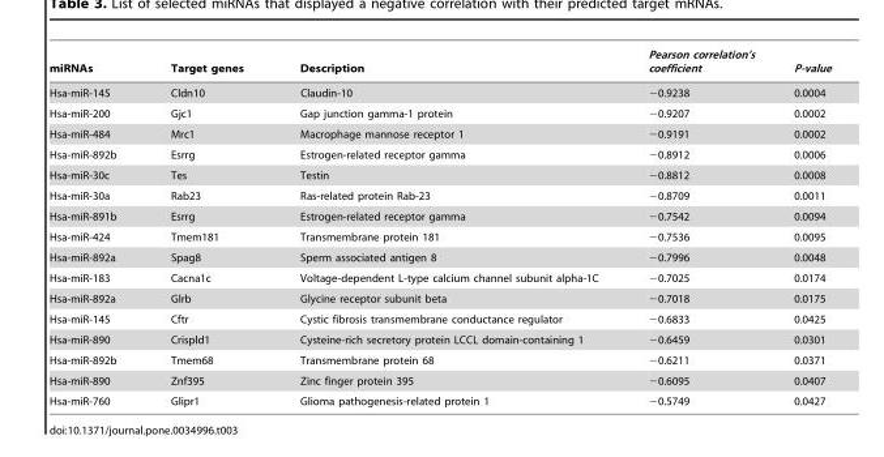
<table><thead><tr><td>miRNAs</td><td>Target genes</td><td>Description</td><td>Pearson correlation’s coefficient</td><td>P-value</td></tr></thead><tbody><tr><td>Hsa-miR-145</td><td>Cldn10</td><td>Claudin-10</td><td>−0.9238</td><td>0.0004</td></tr><tr><td>Hsa-miR-200</td><td>Gjc1</td><td>Gap junction gamma-1 protein</td><td>−0.9207</td><td>0.0002</td></tr><tr><td>Hsa-miR-484</td><td>Mrc1</td><td>Macrophage mannose receptor 1</td><td>−0.9191</td><td>0.0002</td></tr><tr><td>Hsa-miR-892b</td><td>Esrrg</td><td>Estrogen-related receptor gamma</td><td>−0.8912</td><td>0.0006</td></tr><tr><td>Hsa-miR-30c</td><td>Tes</td><td>Testin</td><td>−0.8812</td><td>0.0008</td></tr><tr><td>Hsa-miR-30a</td><td>Rab23</td><td>Ras-related protein Rab-23</td><td>−0.8709</td><td>0.0011</td></tr><tr><td>Hsa-miR-891b</td><td>Esrrg</td><td>Estrogen-related receptor gamma</td><td>−0.7542</td><td>0.0094</td></tr><tr><td>Hsa-miR-424</td><td>Tmem181</td><td>Transmembrane protein 181</td><td>−0.7536</td><td>0.0095</td></tr><tr><td>Hsa-miR-892a</td><td>Spag8</td><td>Sperm associated antigen 8</td><td>−0.7996</td><td>0.0048</td></tr><tr><td>Hsa-miR-183</td><td>Cacna1c</td><td>Voltage-dependent L-type calcium channel subunit alpha-1C</td><td>−0.7025</td><td>0.0174</td></tr><tr><td>Hsa-miR-892a</td><td>Glrb</td><td>Glycine receptor subunit beta</td><td>−0.7018</td><td>0.0175</td></tr><tr><td>Hsa-miR-145</td><td>Cftr</td><td>Cystic fibrosis transmembrane conductance regulator</td><td>−0.6833</td><td>0.0425</td></tr><tr><td>Hsa-miR-890</td><td>Crispld1</td><td>Cysteine-rich secretory protein LCCL domain-containing 1</td><td>−0.6459</td><td>0.0301</td></tr><tr><td>Hsa-miR-892b</td><td>Tmem68</td><td>Transmembrane protein 68</td><td>−0.6211</td><td>0.0371</td></tr><tr><td>Hsa-miR-890</td><td>Znf395</td><td>Zinc finger protein 395</td><td>−0.6095</td><td>0.0407</td></tr><tr><td>Hsa-miR-760</td><td>Glipr1</td><td>Glioma pathogenesis-related protein 1</td><td>−0.5749</td><td>0.0427</td></tr></tbody></table>